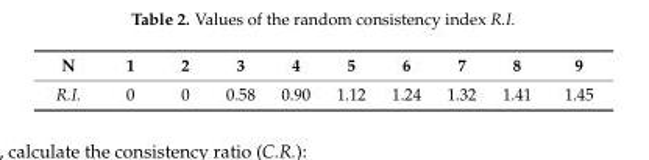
<table><thead><tr><td>N</td><td>1</td><td>2</td><td>3</td><td>4</td><td>5</td><td>6</td><td>7</td><td>8</td><td>9</td></tr></thead><tbody><tr><td>R.I.</td><td>0</td><td>0</td><td>0.58</td><td>0.90</td><td>1.12</td><td>1.24</td><td>1.32</td><td>1.41</td><td>1.45</td></tr></tbody></table>